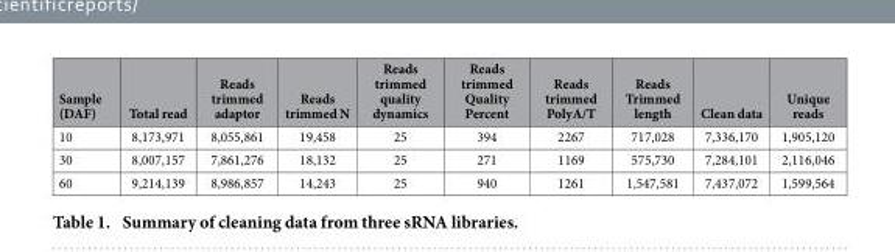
<table><thead><tr><td>Sample (DAF)</td><td>Total read</td><td>Reads trimmed adaptor</td><td>Reads trimmed N</td><td>Reads trimmed quality dynamics</td><td>Reads trimmed Quality Percent</td><td>Reads trimmed PolyA/T</td><td>Reads Trimmed length</td><td>Clean data</td><td>Unique reads</td></tr></thead><tbody><tr><td>10</td><td>8,173,971</td><td>8,055,861</td><td>19,458</td><td>25</td><td>394</td><td>2267</td><td>717,028</td><td>7,336,170</td><td>1,905,120</td></tr><tr><td>30</td><td>8,007,157</td><td>7,861,276</td><td>18,132</td><td>25</td><td>271</td><td>1169</td><td>575,730</td><td>7,284,101</td><td>2,116,046</td></tr><tr><td>60</td><td>9,214,139</td><td>8,986,857</td><td>14,243</td><td>25</td><td>940</td><td>1261</td><td>1,547,581</td><td>7,437,072</td><td>1,599,564</td></tr></tbody></table>